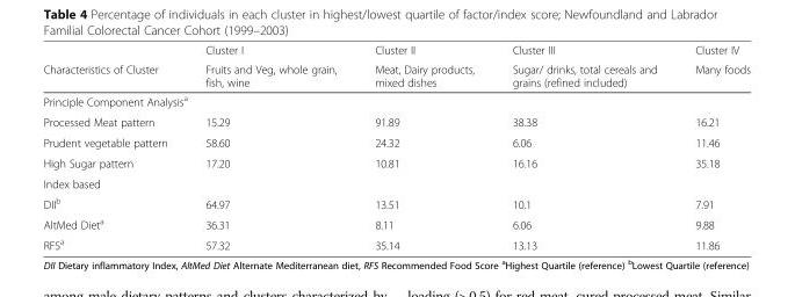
<table><thead><tr><td rowspan="2">Characteristics of Cluster</td><td rowspan="2">Cluster I Fruits and Veg, whole grain, fish, wine</td><td rowspan="2">Cluster II Meat, Dairy products, mixed dishes</td><td rowspan="2">Cluster III Sugar/ drinks, total cereals and grains (refined included)</td><td rowspan="2">Cluster IV Many foods</td></tr><tr></tr></thead><tbody><tr><td colspan="5">Principle Component Analysis<sup>a</sup></td></tr><tr><td>Processed Meat pattern</td><td>15.29</td><td>91.89</td><td>38.38</td><td>16.21</td></tr><tr><td>Prudent vegetable pattern</td><td>58.60</td><td>24.32</td><td>6.06</td><td>11.46</td></tr><tr><td>High Sugar pattern</td><td>17.20</td><td>10.81</td><td>16.16</td><td>35.18</td></tr><tr><td colspan="5">Index based</td></tr><tr><td>DII<sup>b</sup></td><td>64.97</td><td>13.51</td><td>10.1</td><td>7.91</td></tr><tr><td>AltMed Diet<sup>a</sup></td><td>36.31</td><td>8.11</td><td>6.06</td><td>9.88</td></tr><tr><td>RFS<sup>a</sup></td><td>57.32</td><td>35.14</td><td>13.13</td><td>11.86</td></tr></tbody></table>